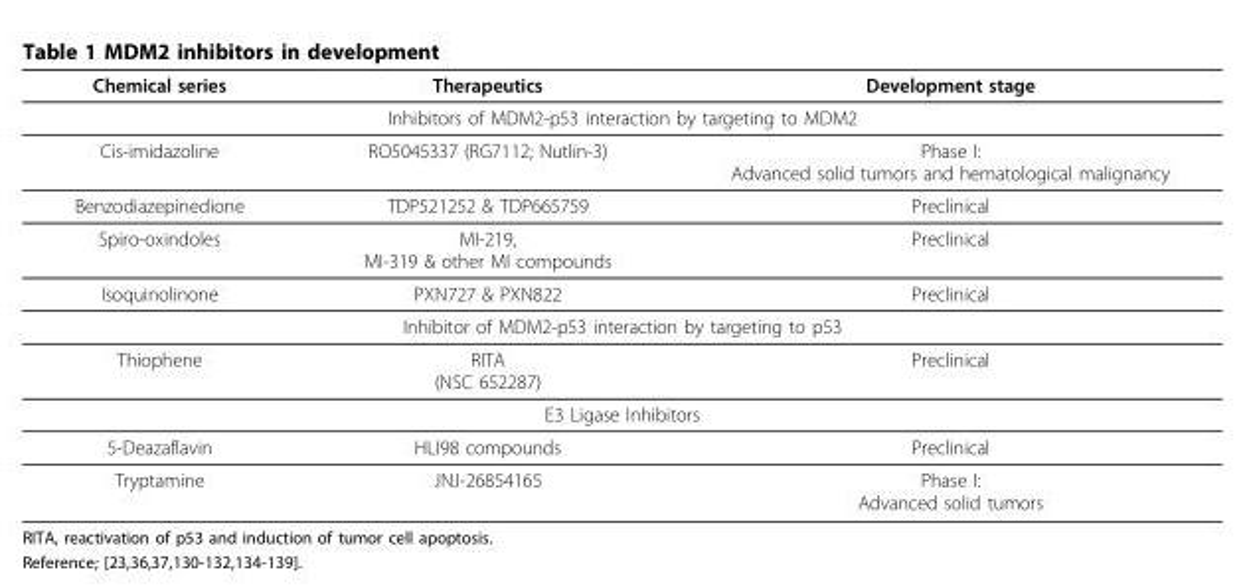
<table><thead><tr><td>Chemical series</td><td>Therapeutics</td><td>Development stage</td></tr></thead><tbody><tr><td colspan="3">Inhibitors of MDM2-p53 interaction by targeting to MDM2</td></tr><tr><td>Cis-imidazoline</td><td>RO5045337 (RG7112; Nutlin-3)</td><td>Phase I: Advanced solid tumors and hematological malignancy</td></tr><tr><td>Benzodiazepinedione</td><td>TDP521252 &amp; TDP665759</td><td>Preclinical</td></tr><tr><td>Spiro-oxindoles</td><td>MI-219, MI-319 &amp; other MI compounds</td><td>Preclinical</td></tr><tr><td>Isoquinolinone</td><td>PXN727 &amp; PXN822</td><td>Preclinical</td></tr><tr><td colspan="3">Inhibitor of MDM2-p53 interaction by targeting to p53</td></tr><tr><td>Thiophene</td><td>RITA (NSC 652287)</td><td>Preclinical</td></tr><tr><td colspan="3">E3 Ligase Inhibitors</td></tr><tr><td>5-Deazaflavin</td><td>HLI98 compounds</td><td>Preclinical</td></tr><tr><td>Tryptamine</td><td>JNJ-26854165</td><td>Phase I: Advanced solid tumors</td></tr></tbody></table>